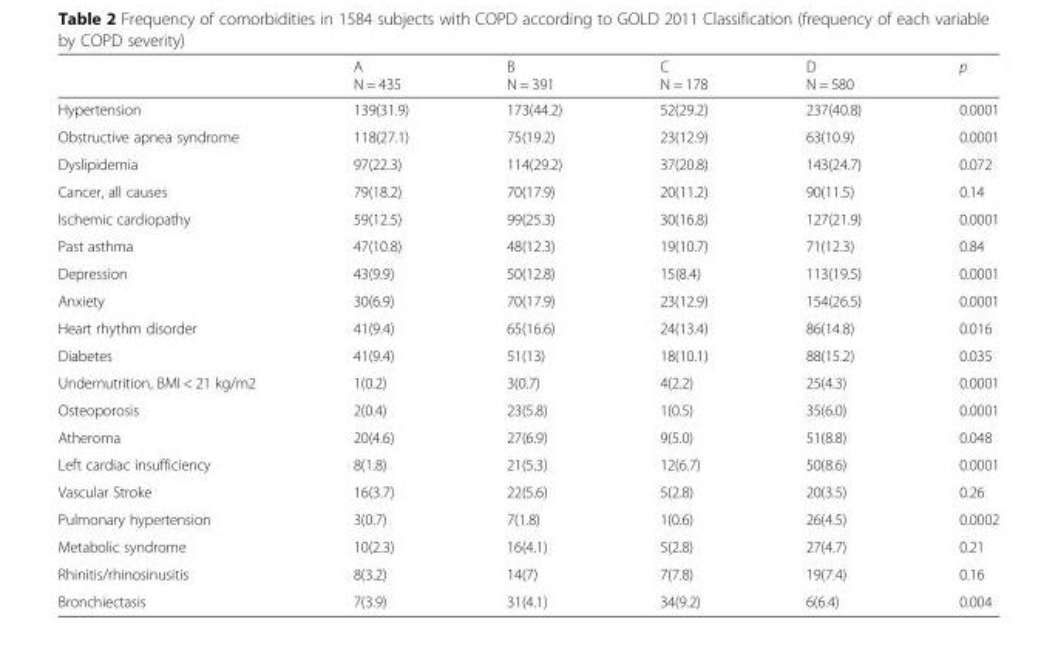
<table><thead><tr><td></td><td>A N = 435</td><td>B N = 391</td><td>C N = 178</td><td>D N = 580</td><td>p</td></tr></thead><tbody><tr><td>Hypertension</td><td>139(31.9)</td><td>173(44.2)</td><td>52(29.2)</td><td>237(40.8)</td><td>0.0001</td></tr><tr><td>Obstructive apnea syndrome</td><td>118(27.1)</td><td>75(19.2)</td><td>23(12.9)</td><td>63(10.9)</td><td>0.0001</td></tr><tr><td>Dyslipidemia</td><td>97(22.3)</td><td>114(29.2)</td><td>37(20.8)</td><td>143(24.7)</td><td>0.072</td></tr><tr><td>Cancer, all causes</td><td>79(18.2)</td><td>70(17.9)</td><td>20(11.2)</td><td>90(11.5)</td><td>0.14</td></tr><tr><td>Ischemic cardiopathy</td><td>59(12.5)</td><td>99(25.3)</td><td>30(16.8)</td><td>127(21.9)</td><td>0.0001</td></tr><tr><td>Past asthma</td><td>47(10.8)</td><td>48(12.3)</td><td>19(10.7)</td><td>71(12.3)</td><td>0.84</td></tr><tr><td>Depression</td><td>43(9.9)</td><td>50(12.8)</td><td>15(8.4)</td><td>113(19.5)</td><td>0.0001</td></tr><tr><td>Anxiety</td><td>30(6.9)</td><td>70(17.9)</td><td>23(12.9)</td><td>154(26.5)</td><td>0.0001</td></tr><tr><td>Heart rhythm disorder</td><td>41(9.4)</td><td>65(16.6)</td><td>24(13.4)</td><td>86(14.8)</td><td>0.016</td></tr><tr><td>Diabetes</td><td>41(9.4)</td><td>51(13)</td><td>18(10.1)</td><td>88(15.2)</td><td>0.035</td></tr><tr><td>Undernutrition, BMI &lt; 21 kg/m2</td><td>1(0.2)</td><td>3(0.7)</td><td>4(2.2)</td><td>25(4.3)</td><td>0.0001</td></tr><tr><td>Osteoporosis</td><td>2(0.4)</td><td>23(5.8)</td><td>1(0.5)</td><td>35(6.0)</td><td>0.0001</td></tr><tr><td>Atheroma</td><td>20(4.6)</td><td>27(6.9)</td><td>9(5.0)</td><td>51(8.8)</td><td>0.048</td></tr><tr><td>Left cardiac insufficiency</td><td>8(1.8)</td><td>21(5.3)</td><td>12(6.7)</td><td>50(8.6)</td><td>0.0001</td></tr><tr><td>Vascular Stroke</td><td>16(3.7)</td><td>22(5.6)</td><td>5(2.8)</td><td>20(3.5)</td><td>0.26</td></tr><tr><td>Pulmonary hypertension</td><td>3(0.7)</td><td>7(1.8)</td><td>1(0.6)</td><td>26(4.5)</td><td>0.0002</td></tr><tr><td>Metabolic syndrome</td><td>10(2.3)</td><td>16(4.1)</td><td>5(2.8)</td><td>27(4.7)</td><td>0.21</td></tr><tr><td>Rhinitis/rhinosinusitis</td><td>8(3.2)</td><td>14(7)</td><td>7(7.8)</td><td>19(7.4)</td><td>0.16</td></tr><tr><td>Bronchiectasis</td><td>7(3.9)</td><td>31(4.1)</td><td>34(9.2)</td><td>6(6.4)</td><td>0.004</td></tr></tbody></table>